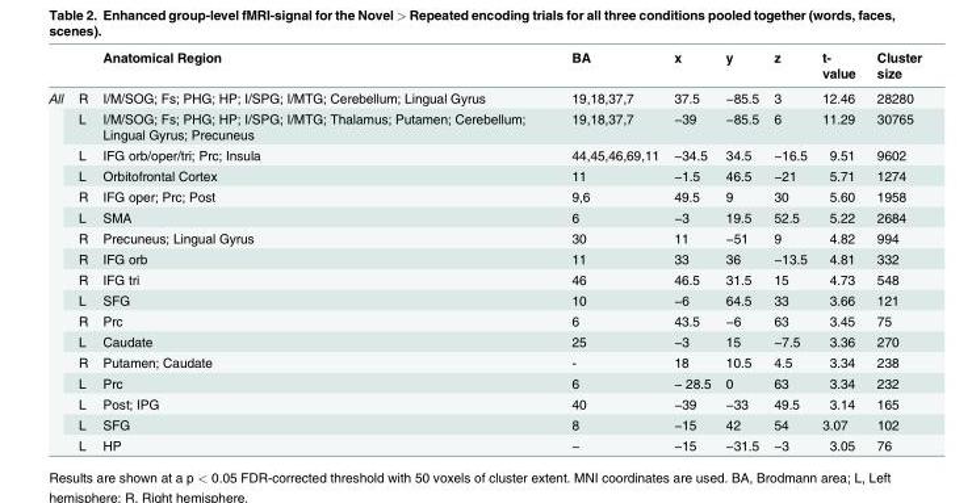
<table><thead><tr><td></td><td></td><td>Anatomical Region</td><td>BA</td><td>x</td><td>y</td><td>z</td><td>t- value</td><td>Cluster size</td></tr></thead><tbody><tr><td rowspan="17">All</td><td>R</td><td>I/M/SOG; Fs; PHG; HP; I/SPG; I/MTG; Cerebellum; Lingual Gyrus</td><td>19,18,37,7</td><td>37.5</td><td>−85.5</td><td>3</td><td>12.46</td><td>28280</td></tr><tr><td>L</td><td>I/M/SOG; Fs; PHG; HP; I/SPG; I/MTG; Thalamus; Putamen; Cerebellum; Lingual Gyrus; Precuneus</td><td>19,18,37,7</td><td>−39</td><td>−85.5</td><td>6</td><td>11.29</td><td>30765</td></tr><tr><td>L</td><td>IFG orb/oper/tri; Prc; Insula</td><td>44,45,46,69,11</td><td>−34.5</td><td>34.5</td><td>−16.5</td><td>9.51</td><td>9602</td></tr><tr><td>L</td><td>Orbitofrontal Cortex</td><td>11</td><td>−1.5</td><td>46.5</td><td>−21</td><td>5.71</td><td>1274</td></tr><tr><td>R</td><td>IFG oper; Prc; Post</td><td>9,6</td><td>49.5</td><td>9</td><td>30</td><td>5.60</td><td>1958</td></tr><tr><td>L</td><td>SMA</td><td>6</td><td>−3</td><td>19.5</td><td>52.5</td><td>5.22</td><td>2684</td></tr><tr><td>R</td><td>Precuneus; Lingual Gyrus</td><td>30</td><td>11</td><td>−51</td><td>9</td><td>4.82</td><td>994</td></tr><tr><td>R</td><td>IFG orb</td><td>11</td><td>33</td><td>36</td><td>−13.5</td><td>4.81</td><td>332</td></tr><tr><td>R</td><td>IFG tri</td><td>46</td><td>46.5</td><td>31.5</td><td>15</td><td>4.73</td><td>548</td></tr><tr><td>L</td><td>SFG</td><td>10</td><td>−6</td><td>64.5</td><td>33</td><td>3.66</td><td>121</td></tr><tr><td>R</td><td>Prc</td><td>6</td><td>43.5</td><td>−6</td><td>63</td><td>3.45</td><td>75</td></tr><tr><td>L</td><td>Caudate</td><td>25</td><td>−3</td><td>15</td><td>−7.5</td><td>3.36</td><td>270</td></tr><tr><td>R</td><td>Putamen; Caudate</td><td>-</td><td>18</td><td>10.5</td><td>4.5</td><td>3.34</td><td>238</td></tr><tr><td>L</td><td>Prc</td><td>6</td><td>− 28.5</td><td>0</td><td>63</td><td>3.34</td><td>232</td></tr><tr><td>L</td><td>Post; IPG</td><td>40</td><td>−39</td><td>−33</td><td>49.5</td><td>3.14</td><td>165</td></tr><tr><td>L</td><td>SFG</td><td>8</td><td>−15</td><td>42</td><td>54</td><td>3.07</td><td>102</td></tr><tr><td>L</td><td>HP</td><td>−</td><td>−15</td><td>−31.5</td><td>−3</td><td>3.05</td><td>76</td></tr></tbody></table>